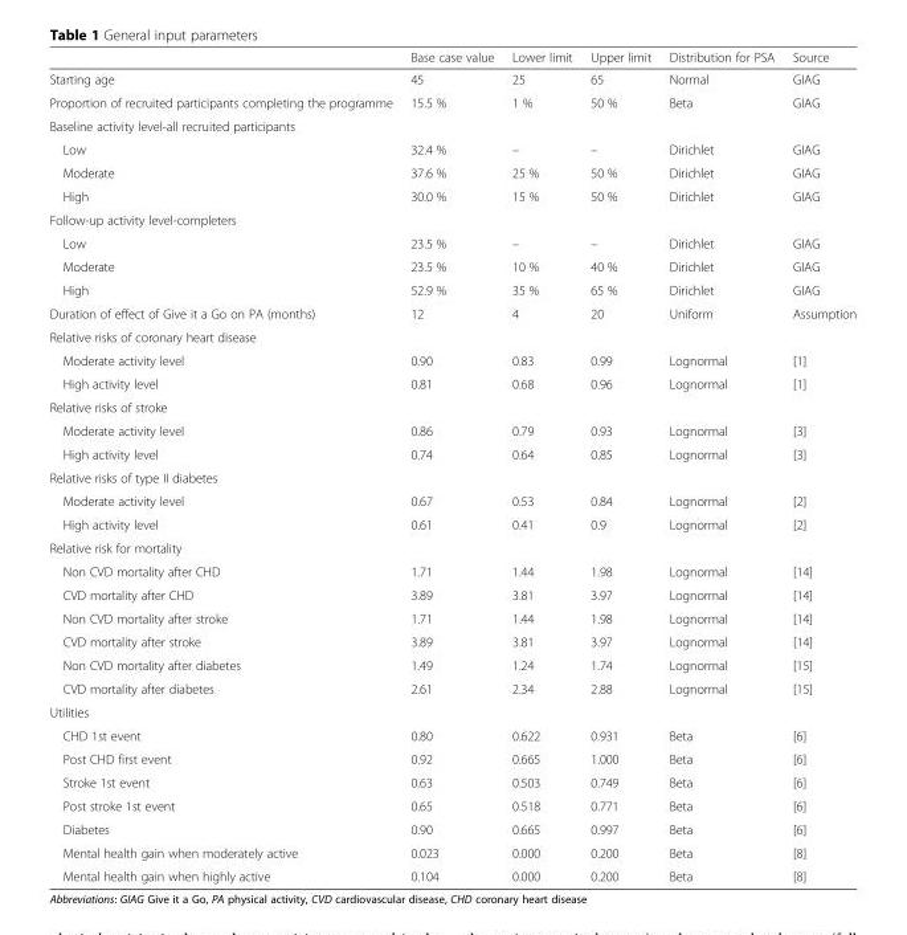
<table><thead><tr><td></td><td>Base case value</td><td>Lower limit</td><td>Upper limit</td><td>Distribution for PSA</td><td>Source</td></tr></thead><tbody><tr><td>Starting age</td><td>45</td><td>25</td><td>65</td><td>Normal</td><td>GIAG</td></tr><tr><td>Proportion of recruited participants completing the programme</td><td>15.5 %</td><td>1 %</td><td>50 %</td><td>Beta</td><td>GIAG</td></tr><tr><td colspan="6">Baseline activity level-all recruited participants</td></tr><tr><td>Low</td><td>32.4 %</td><td>–</td><td>–</td><td>Dirichlet</td><td>GIAG</td></tr><tr><td>Moderate</td><td>37.6 %</td><td>25 %</td><td>50 %</td><td>Dirichlet</td><td>GIAG</td></tr><tr><td>High</td><td>30.0 %</td><td>15 %</td><td>50 %</td><td>Dirichlet</td><td>GIAG</td></tr><tr><td colspan="6">Follow-up activity level-completers</td></tr><tr><td>Low</td><td>23.5 %</td><td>–</td><td>–</td><td>Dirichlet</td><td>GIAG</td></tr><tr><td>Moderate</td><td>23.5 %</td><td>10 %</td><td>40 %</td><td>Dirichlet</td><td>GIAG</td></tr><tr><td>High</td><td>52.9 %</td><td>35 %</td><td>65 %</td><td>Dirichlet</td><td>GIAG</td></tr><tr><td>Duration of effect of Give it a Go on PA (months)</td><td>12</td><td>4</td><td>20</td><td>Uniform</td><td>Assumption</td></tr><tr><td colspan="6">Relative risks of coronary heart disease</td></tr><tr><td>Moderate activity level</td><td>0.90</td><td>0.83</td><td>0.99</td><td>Lognormal</td><td>[1]</td></tr><tr><td>High activity level</td><td>0.81</td><td>0.68</td><td>0.96</td><td>Lognormal</td><td>[1]</td></tr><tr><td colspan="6">Relative risks of stroke</td></tr><tr><td>Moderate activity level</td><td>0.86</td><td>0.79</td><td>0.93</td><td>Lognormal</td><td>[3]</td></tr><tr><td>High activity level</td><td>0.74</td><td>0.64</td><td>0.85</td><td>Lognormal</td><td>[3]</td></tr><tr><td colspan="6">Relative risks of type II diabetes</td></tr><tr><td>Moderate activity level</td><td>0.67</td><td>0.53</td><td>0.84</td><td>Lognormal</td><td>[2]</td></tr><tr><td>High activity level</td><td>0.61</td><td>0.41</td><td>0.9</td><td>Lognormal</td><td>[2]</td></tr><tr><td colspan="6">Relative risk for mortality</td></tr><tr><td>Non CVD mortality after CHD</td><td>1.71</td><td>1.44</td><td>1.98</td><td>Lognormal</td><td>[14]</td></tr><tr><td>CVD mortality after CHD</td><td>3.89</td><td>3.81</td><td>3.97</td><td>Lognormal</td><td>[14]</td></tr><tr><td>Non CVD mortality after stroke</td><td>1.71</td><td>1.44</td><td>1.98</td><td>Lognormal</td><td>[14]</td></tr><tr><td>CVD mortality after stroke</td><td>3.89</td><td>3.81</td><td>3.97</td><td>Lognormal</td><td>[14]</td></tr><tr><td>Non CVD mortality after diabetes</td><td>1.49</td><td>1.24</td><td>1.74</td><td>Lognormal</td><td>[15]</td></tr><tr><td>CVD mortality after diabetes</td><td>2.61</td><td>2.34</td><td>2.88</td><td>Lognormal</td><td>[15]</td></tr><tr><td colspan="6">Utilities</td></tr><tr><td>CHD 1st event</td><td>0.80</td><td>0.622</td><td>0.931</td><td>Beta</td><td>[6]</td></tr><tr><td>Post CHD first event</td><td>0.92</td><td>0.665</td><td>1.000</td><td>Beta</td><td>[6]</td></tr><tr><td>Stroke 1st event</td><td>0.63</td><td>0.503</td><td>0.749</td><td>Beta</td><td>[6]</td></tr><tr><td>Post stroke 1st event</td><td>0.65</td><td>0.518</td><td>0.771</td><td>Beta</td><td>[6]</td></tr><tr><td>Diabetes</td><td>0.90</td><td>0.665</td><td>0.997</td><td>Beta</td><td>[6]</td></tr><tr><td>Mental health gain when moderately active</td><td>0.023</td><td>0.000</td><td>0.200</td><td>Beta</td><td>[8]</td></tr><tr><td>Mental health gain when highly active</td><td>0.104</td><td>0.000</td><td>0.200</td><td>Beta</td><td>[8]</td></tr></tbody></table>